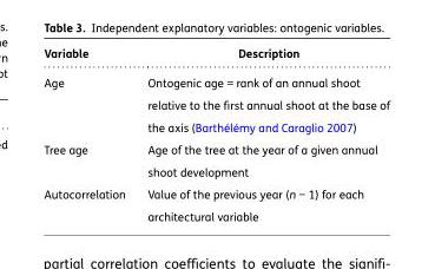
<table><thead><tr><td>Variable</td><td>Description</td></tr></thead><tbody><tr><td>Age</td><td>Ontogenic age = rank of an annual shoot relative to the first annual shoot at the base of the axis (Barthélémy and Caraglio 2007)</td></tr><tr><td>Tree age</td><td>Age of the tree at the year of a given annual shoot development</td></tr><tr><td>Autocorrelation</td><td>Value of the previous year (n − 1) for each architectural variable</td></tr></tbody></table>